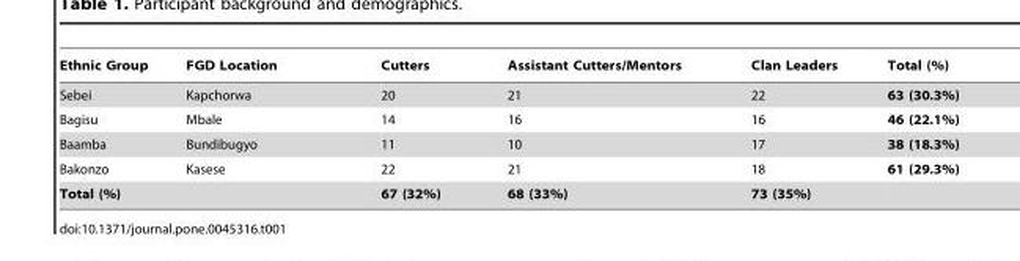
<table><thead><tr><td>Ethnic Group</td><td>FGD Location</td><td>Cutters</td><td>Assistant Cutters/Mentors</td><td>Clan Leaders</td><td>Total (%)</td></tr></thead><tbody><tr><td>Sebei</td><td>Kapchorwa</td><td>20</td><td>21</td><td>22</td><td>63 (30.3%)</td></tr><tr><td>Bagisu</td><td>Mbale</td><td>14</td><td>16</td><td>16</td><td>46 (22.1%)</td></tr><tr><td>Baamba</td><td>Bundibugyo</td><td>11</td><td>10</td><td>17</td><td>38 (18.3%)</td></tr><tr><td>Bakonzo</td><td>Kasese</td><td>22</td><td>21</td><td>18</td><td>61 (29.3%)</td></tr><tr><td colspan="2">Total (%)</td><td>67 (32%)</td><td>68 (33%)</td><td>73 (35%)</td><td></td></tr></tbody></table>